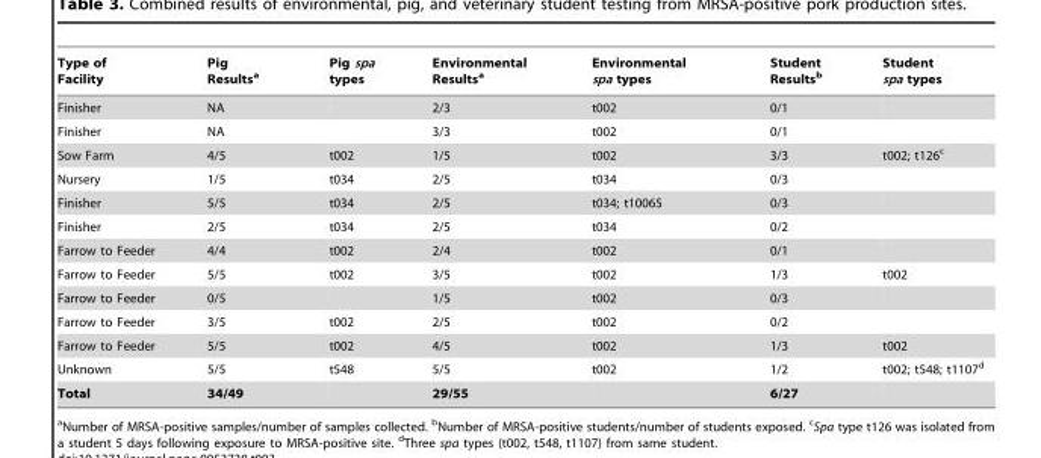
<table><thead><tr><td>Type of Facility</td><td>Pig Results<sup>a</sup></td><td>Pig spa types</td><td>Environmental Results<sup>a</sup></td><td>Environmental spa types</td><td>Student Results<sup>b</sup></td><td>Student spa types</td></tr></thead><tbody><tr><td>Finisher</td><td>NA</td><td></td><td>2/3</td><td>t002</td><td>0/1</td><td></td></tr><tr><td>Finisher</td><td>NA</td><td></td><td>3/3</td><td>t002</td><td>0/1</td><td></td></tr><tr><td>Sow Farm</td><td>4/5</td><td>t002</td><td>1/5</td><td>t002</td><td>3/3</td><td>t002; t126<sup>c</sup></td></tr><tr><td>Nursery</td><td>1/5</td><td>t034</td><td>2/5</td><td>t034</td><td>0/3</td><td></td></tr><tr><td>Finisher</td><td>5/5</td><td>t034</td><td>2/5</td><td>t034; t10065</td><td>0/3</td><td></td></tr><tr><td>Finisher</td><td>2/5</td><td>t034</td><td>2/5</td><td>t034</td><td>0/2</td><td></td></tr><tr><td>Farrow to Feeder</td><td>4/4</td><td>t002</td><td>2/4</td><td>t002</td><td>0/1</td><td></td></tr><tr><td>Farrow to Feeder</td><td>5/5</td><td>t002</td><td>3/5</td><td>t002</td><td>1/3</td><td>t002</td></tr><tr><td>Farrow to Feeder</td><td>0/5</td><td></td><td>1/5</td><td>t002</td><td>0/3</td><td></td></tr><tr><td>Farrow to Feeder</td><td>3/5</td><td>t002</td><td>2/5</td><td>t002</td><td>0/2</td><td></td></tr><tr><td>Farrow to Feeder</td><td>5/5</td><td>t002</td><td>4/5</td><td>t002</td><td>1/3</td><td>t002</td></tr><tr><td>Unknown</td><td>5/5</td><td>t548</td><td>5/5</td><td>t002</td><td>1/2</td><td>t002; t548; t1107<sup>d</sup></td></tr><tr><td>Total</td><td>34/49</td><td></td><td>29/55</td><td></td><td>6/27</td><td></td></tr></tbody></table>